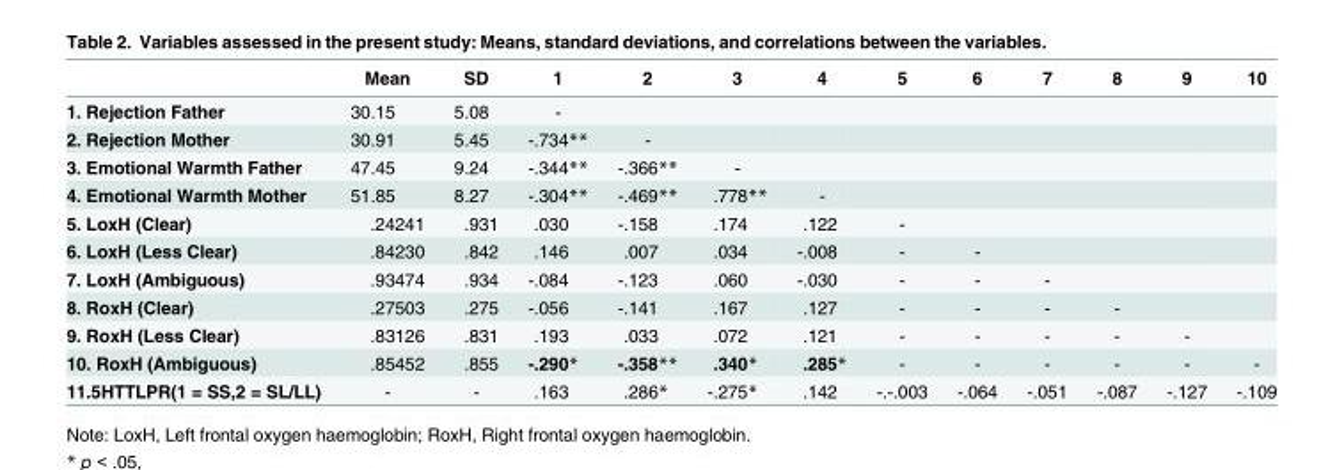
<table><thead><tr><td></td><td>Mean</td><td>SD</td><td>1</td><td>2</td><td>3</td><td>4</td><td>5</td><td>6</td><td>7</td><td>8</td><td>9</td><td>10</td></tr></thead><tbody><tr><td>1. Rejection Father</td><td>30.15</td><td>5.08</td><td>-</td><td></td><td></td><td></td><td></td><td></td><td></td><td></td><td></td><td></td></tr><tr><td>2. Rejection Mother</td><td>30.91</td><td>5.45</td><td>-.734**</td><td>-</td><td></td><td></td><td></td><td></td><td></td><td></td><td></td><td></td></tr><tr><td>3. Emotional Warmth Father</td><td>47.45</td><td>9.24</td><td>-.344**</td><td>-.366**</td><td>-</td><td></td><td></td><td></td><td></td><td></td><td></td><td></td></tr><tr><td>4. Emotional Warmth Mother</td><td>51.85</td><td>8.27</td><td>-.304**</td><td>-.469**</td><td>.778**</td><td>-</td><td></td><td></td><td></td><td></td><td></td><td></td></tr><tr><td>5. LoxH (Clear)</td><td>.24241</td><td>.931</td><td>.030</td><td>-.158</td><td>.174</td><td>.122</td><td>-</td><td></td><td></td><td></td><td></td><td></td></tr><tr><td>6. LoxH (Less Clear)</td><td>.84230</td><td>.842</td><td>.146</td><td>.007</td><td>.034</td><td>-.008</td><td>-</td><td>-</td><td></td><td></td><td></td><td></td></tr><tr><td>7. LoxH (Ambiguous)</td><td>.93474</td><td>.934</td><td>-.084</td><td>-.123</td><td>.060</td><td>-.030</td><td>-</td><td>-</td><td>-</td><td></td><td></td><td></td></tr><tr><td>8. RoxH (Clear)</td><td>.27503</td><td>.275</td><td>-.056</td><td>-.141</td><td>.167</td><td>.127</td><td>-</td><td>-</td><td>-</td><td>-</td><td></td><td></td></tr><tr><td>9. RoxH (Less Clear)</td><td>.83126</td><td>.831</td><td>.193</td><td>.033</td><td>.072</td><td>.121</td><td>-</td><td>-</td><td>-</td><td>-</td><td>-</td><td></td></tr><tr><td>10. RoxH (Ambiguous)</td><td>.85452</td><td>.855</td><td>-.290*</td><td>-.358**</td><td>.340*</td><td>.285*</td><td>-</td><td>-</td><td>-</td><td>-</td><td>-</td><td>-</td></tr><tr><td>11.5HTTLPR(1 = SS,2 = SL/LL)</td><td>-</td><td>-</td><td>.163</td><td>.286*</td><td>-.275*</td><td>.142</td><td>-.-.003</td><td>-.064</td><td>-.051</td><td>-.087</td><td>-.127</td><td>-.109</td></tr></tbody></table>